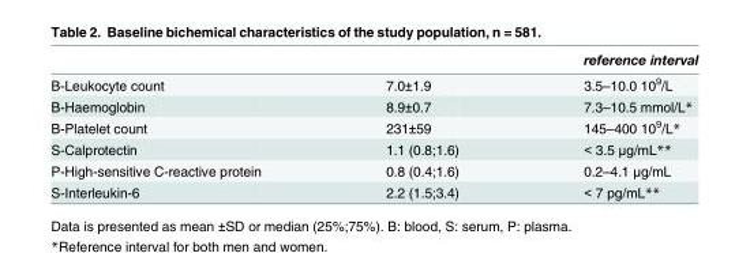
<table><thead><tr><td></td><td></td><td>reference interval</td></tr></thead><tbody><tr><td>B-Leukocyte count</td><td>7.0±1.9</td><td>3.5–10.0 10<sup>9</sup>/L</td></tr><tr><td>B-Haemoglobin</td><td>8.9±0.7</td><td>7.3–10.5 mmol/L*</td></tr><tr><td>B-Platelet count</td><td>231±59</td><td>145–400 10<sup>9</sup>/L*</td></tr><tr><td>S-Calprotectin</td><td>1.1 (0.8;1.6)</td><td>&lt; 3.5 μg/mL**</td></tr><tr><td>P-High-sensitive C-reactive protein</td><td>0.8 (0.4;1.6)</td><td>0.2–4.1 μg/mL</td></tr><tr><td>S-Interleukin-6</td><td>2.2 (1.5;3.4)</td><td>&lt; 7 pg/mL**</td></tr></tbody></table>